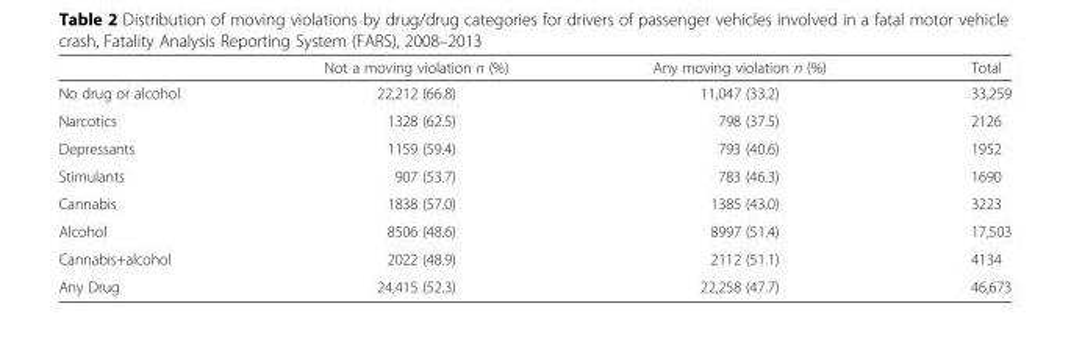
<table><thead><tr><td></td><td>Not a moving violation n (%)</td><td>Any moving violation n (%)</td><td>Total</td></tr></thead><tbody><tr><td>No drug or alcohol</td><td>22,212 (66.8)</td><td>11,047 (33.2)</td><td>33,259</td></tr><tr><td>Narcotics</td><td>1328 (62.5)</td><td>798 (37.5)</td><td>2126</td></tr><tr><td>Depressants</td><td>1159 (59.4)</td><td>793 (40.6)</td><td>1952</td></tr><tr><td>Stimulants</td><td>907 (53.7)</td><td>783 (46.3)</td><td>1690</td></tr><tr><td>Cannabis</td><td>1838 (57.0)</td><td>1385 (43.0)</td><td>3223</td></tr><tr><td>Alcohol</td><td>8506 (48.6)</td><td>8997 (51.4)</td><td>17,503</td></tr><tr><td>Cannabis+alcohol</td><td>2022 (48.9)</td><td>2112 (51.1)</td><td>4134</td></tr><tr><td>Any Drug</td><td>24,415 (52.3)</td><td>22,258 (47.7)</td><td>46,673</td></tr></tbody></table>